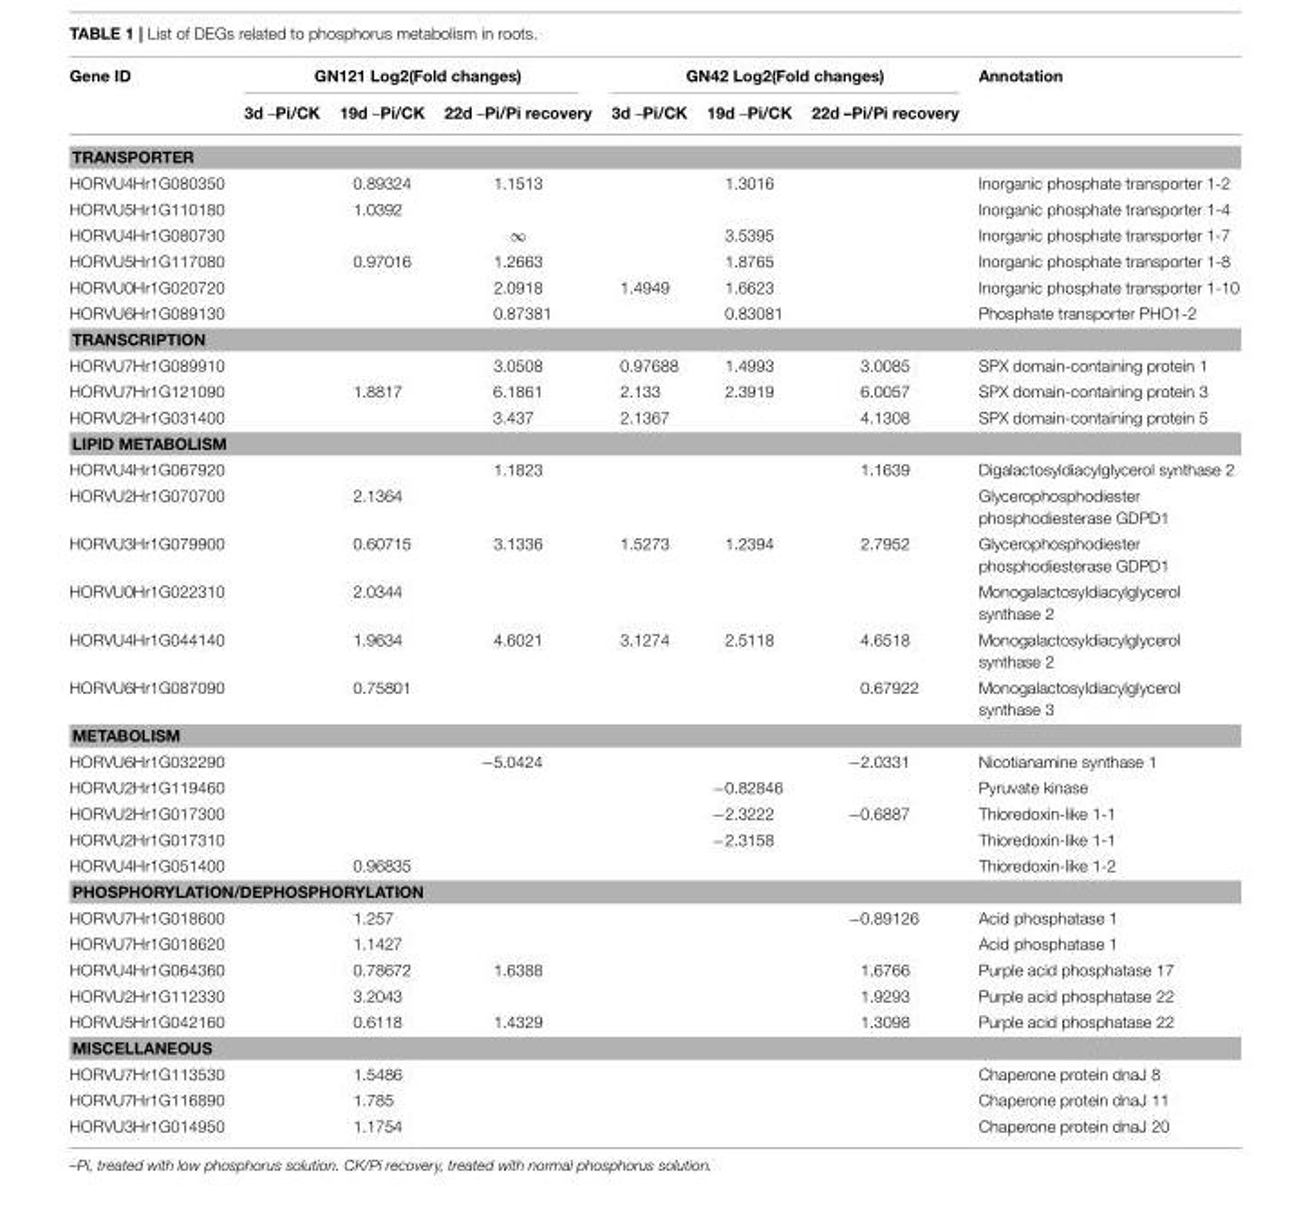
<table><thead><tr><td rowspan="2">Gene ID</td><td colspan="3">GN121 Log2(Fold changes)</td><td colspan="3">GN42 Log2(Fold changes)</td><td rowspan="2">Annotation</td></tr><tr><td>3d –Pi/CK</td><td>19d –Pi/CK</td><td>22d –Pi/Pi recovery</td><td>3d –Pi/CK</td><td>19d –Pi/CK</td><td>22d –Pi/Pi recovery</td></tr></thead><tbody><tr><td colspan="8">TRANSPORTER</td></tr><tr><td>HORVU4Hr1G080350</td><td></td><td>0.89324</td><td>1.1513</td><td></td><td>1.3016</td><td></td><td>Inorganic phosphate transporter 1-2</td></tr><tr><td>HORVU5Hr1G110180</td><td></td><td>1.0392</td><td></td><td></td><td></td><td></td><td>Inorganic phosphate transporter 1-4</td></tr><tr><td>HORVU4Hr1G080730</td><td></td><td></td><td>∞</td><td></td><td>3.5395</td><td></td><td>Inorganic phosphate transporter 1-7</td></tr><tr><td>HORVU5Hr1G117080</td><td></td><td>0.97016</td><td>1.2663</td><td></td><td>1.8765</td><td></td><td>Inorganic phosphate transporter 1-8</td></tr><tr><td>HORVU0Hr1G020720</td><td></td><td></td><td>2.0918</td><td>1.4949</td><td>1.6623</td><td></td><td>Inorganic phosphate transporter 1-10</td></tr><tr><td>HORVU6Hr1G089130</td><td></td><td></td><td>0.87381</td><td></td><td>0.83081</td><td></td><td>Phosphate transporter PHO1-2</td></tr><tr><td colspan="8">TRANSCRIPTION</td></tr><tr><td>HORVU7Hr1G089910</td><td></td><td></td><td>3.0508</td><td>0.97688</td><td>1.4993</td><td>3.0085</td><td>SPX domain-containing protein 1</td></tr><tr><td>HORVU7Hr1G121090</td><td></td><td>1.8817</td><td>6.1861</td><td>2.133</td><td>2.3919</td><td>6.0057</td><td>SPX domain-containing protein 3</td></tr><tr><td>HORVU2Hr1G031400</td><td></td><td></td><td>3.437</td><td>2.1367</td><td></td><td>4.1308</td><td>SPX domain-containing protein 5</td></tr><tr><td colspan="8">LIPID METABOLISM</td></tr><tr><td>HORVU4Hr1G067920</td><td></td><td></td><td>1.1823</td><td></td><td></td><td>1.1639</td><td>Digalactosyldiacylglycerol synthase 2</td></tr><tr><td>HORVU2Hr1G070700</td><td></td><td>2.1364</td><td></td><td></td><td></td><td></td><td>Glycerophosphodiester phosphodiesterase GDPD1</td></tr><tr><td>HORVU3Hr1G079900</td><td></td><td>0.60715</td><td>3.1336</td><td>1.5273</td><td>1.2394</td><td>2.7952</td><td>Glycerophosphodiester phosphodiesterase GDPD1</td></tr><tr><td>HORVU0Hr1G022310</td><td></td><td>2.0344</td><td></td><td></td><td></td><td></td><td>Monogalactosyldiacylglycerol synthase 2</td></tr><tr><td>HORVU4Hr1G044140</td><td></td><td>1.9634</td><td>4.6021</td><td>3.1274</td><td>2.5118</td><td>4.6518</td><td>Monogalactosyldiacylglycerol synthase 2</td></tr><tr><td>HORVU6Hr1G087090</td><td></td><td>0.75801</td><td></td><td></td><td></td><td>0.67922</td><td>Monogalactosyldiacylglycerol synthase 3</td></tr><tr><td colspan="8">METABOLISM</td></tr><tr><td>HORVU6Hr1G032290</td><td></td><td></td><td>−5.0424</td><td></td><td></td><td>−2.0331</td><td>Nicotianamine synthase 1</td></tr><tr><td>HORVU2Hr1G119460</td><td></td><td></td><td></td><td></td><td>−0.82846</td><td></td><td>Pyruvate kinase</td></tr><tr><td>HORVU2Hr1G017300</td><td></td><td></td><td></td><td></td><td>−2.3222</td><td>−0.6887</td><td>Thioredoxin-like 1-1</td></tr><tr><td>HORVU2Hr1G017310</td><td></td><td></td><td></td><td></td><td>−2.3158</td><td></td><td>Thioredoxin-like 1-1</td></tr><tr><td>HORVU4Hr1G051400</td><td></td><td>0.96835</td><td></td><td></td><td></td><td></td><td>Thioredoxin-like 1-2</td></tr><tr><td colspan="8">PHOSPHORYLATION/DEPHOSPHORYLATION</td></tr><tr><td>HORVU7Hr1G018600</td><td></td><td>1.257</td><td></td><td></td><td></td><td>−0.89126</td><td>Acid phosphatase 1</td></tr><tr><td>HORVU7Hr1G018620</td><td></td><td>1.1427</td><td></td><td></td><td></td><td></td><td>Acid phosphatase 1</td></tr><tr><td>HORVU4Hr1G064360</td><td></td><td>0.78672</td><td>1.6388</td><td></td><td></td><td>1.6766</td><td>Purple acid phosphatase 17</td></tr><tr><td>HORVU2Hr1G112330</td><td></td><td>3.2043</td><td></td><td></td><td></td><td>1.9293</td><td>Purple acid phosphatase 22</td></tr><tr><td>HORVU5Hr1G042160</td><td></td><td>0.6118</td><td>1.4329</td><td></td><td></td><td>1.3098</td><td>Purple acid phosphatase 22</td></tr><tr><td colspan="8">MISCELLANEOUS</td></tr><tr><td>HORVU7Hr1G113530</td><td></td><td>1.5486</td><td></td><td></td><td></td><td></td><td>Chaperone protein dnaJ 8</td></tr><tr><td>HORVU7Hr1G116890</td><td></td><td>1.785</td><td></td><td></td><td></td><td></td><td>Chaperone protein dnaJ 11</td></tr><tr><td>HORVU3Hr1G014950</td><td></td><td>1.1754</td><td></td><td></td><td></td><td></td><td>Chaperone protein dnaJ 20</td></tr></tbody></table>